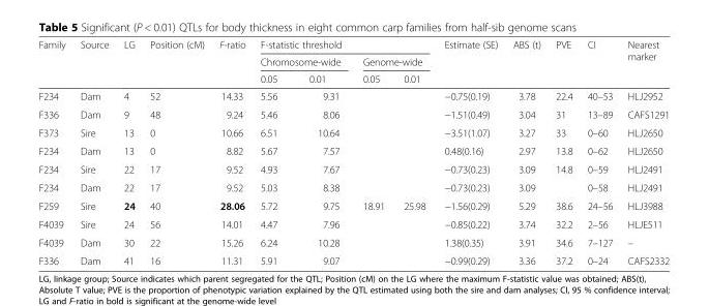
<table><thead><tr><td rowspan="3">Family</td><td rowspan="3">Source</td><td rowspan="3">LG</td><td rowspan="3">Position (cM)</td><td rowspan="3">F-ratio</td><td colspan="4">F-statistic threshold</td><td rowspan="3">Estimate (SE)</td><td rowspan="3">ABS (t)</td><td rowspan="3">PVE</td><td rowspan="3">CI</td><td rowspan="3">Nearest marker</td></tr><tr><td colspan="2">Chromosome-wide</td><td colspan="2">Genome-wide</td></tr><tr><td>0.05</td><td>0.01</td><td>0.05</td><td>0.01</td></tr></thead><tbody><tr><td>F234</td><td>Dam</td><td>4</td><td>52</td><td>14.33</td><td>5.56</td><td>9.31</td><td></td><td></td><td>−0.75(0.19)</td><td>3.78</td><td>22.4</td><td>40–53</td><td>HLJ2952</td></tr><tr><td>F336</td><td>Dam</td><td>9</td><td>48</td><td>9.24</td><td>5.46</td><td>8.06</td><td></td><td></td><td>−1.51(0.49)</td><td>3.04</td><td>31</td><td>13–89</td><td>CAFS1291</td></tr><tr><td>F373</td><td>Sire</td><td>13</td><td>0</td><td>10.66</td><td>6.51</td><td>10.64</td><td></td><td></td><td>−3.51(1.07)</td><td>3.27</td><td>33</td><td>0–60</td><td>HLJ2650</td></tr><tr><td>F234</td><td>Dam</td><td>13</td><td>0</td><td>8.82</td><td>5.67</td><td>7.57</td><td></td><td></td><td>0.48(0.16)</td><td>2.97</td><td>13.8</td><td>0–62</td><td>HLJ2650</td></tr><tr><td>F234</td><td>Sire</td><td>22</td><td>17</td><td>9.52</td><td>4.93</td><td>7.67</td><td></td><td></td><td>−0.73(0.23)</td><td>3.09</td><td rowspan="2">14.8</td><td>0–59</td><td>HLJ2491</td></tr><tr><td>F234</td><td>Dam</td><td>22</td><td>17</td><td>9.52</td><td>5.03</td><td>8.38</td><td></td><td></td><td>−0.73(0.23)</td><td>3.09</td><td>0–58</td><td>HLJ2491</td></tr><tr><td>F259</td><td>Sire</td><td>24</td><td>40</td><td>28.06</td><td>5.72</td><td>9.75</td><td>18.91</td><td>25.98</td><td>−1.56(0.29)</td><td>5.29</td><td>38.6</td><td>24–56</td><td>HLJ3988</td></tr><tr><td>F4039</td><td>Sire</td><td>24</td><td>56</td><td>14.01</td><td>4.47</td><td>7.96</td><td></td><td></td><td>−0.85(0.22)</td><td>3.74</td><td>32.2</td><td>2–56</td><td>HLJE511</td></tr><tr><td>F4039</td><td>Dam</td><td>30</td><td>22</td><td>15.26</td><td>6.24</td><td>10.28</td><td></td><td></td><td>1.38(0.35)</td><td>3.91</td><td>34.6</td><td>7–127</td><td>–</td></tr><tr><td>F336</td><td>Dam</td><td>41</td><td>16</td><td>11.31</td><td>5.91</td><td>9.07</td><td></td><td></td><td>−0.99(0.29)</td><td>3.36</td><td>37.2</td><td>0–24</td><td>CAFS2332</td></tr></tbody></table>